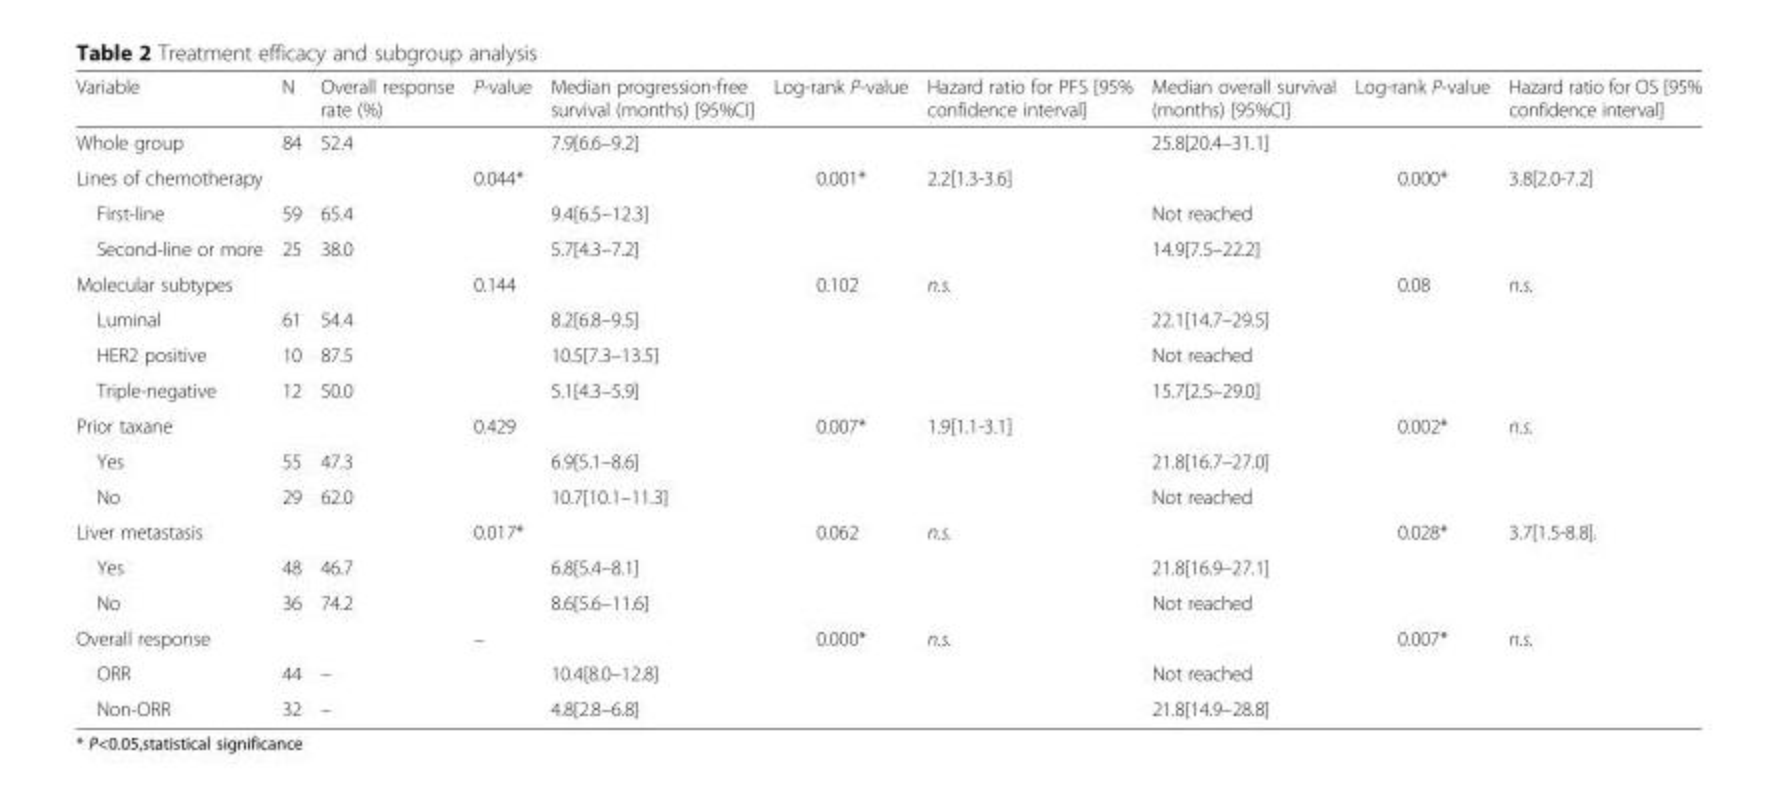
<table><thead><tr><td>Variable</td><td>N</td><td>Overall response rate (%)</td><td>P-value</td><td>Median progression-free survival (months) [95%CI]</td><td>Log-rank P-value</td><td>Hazard ratio for PFS [95% confidence interval]</td><td>Median overall survival (months) [95%CI]</td><td>Log-rank P-value</td><td>Hazard ratio for OS [95% confidence interval]</td></tr></thead><tbody><tr><td>Whole group</td><td>84</td><td>52.4</td><td></td><td>7.9[6.6–9.2]</td><td></td><td></td><td>25.8[20.4–31.1]</td><td></td><td></td></tr><tr><td>Lines of chemotherapy</td><td></td><td></td><td>0.044*</td><td></td><td>0.001*</td><td>2.2[1.3-3.6]</td><td></td><td>0.000*</td><td>3.8[2.0-7.2]</td></tr><tr><td>First-line</td><td>59</td><td>65.4</td><td></td><td>9.4[6.5–12.3]</td><td></td><td></td><td>Not reached</td><td></td><td></td></tr><tr><td>Second-line or more</td><td>25</td><td>38.0</td><td></td><td>5.7[4.3–7.2]</td><td></td><td></td><td>14.9[7.5–22.2]</td><td></td><td></td></tr><tr><td>Molecular subtypes</td><td></td><td></td><td>0.144</td><td></td><td>0.102</td><td>n.s.</td><td></td><td>0.08</td><td>n.s.</td></tr><tr><td>Luminal</td><td>61</td><td>54.4</td><td></td><td>8.2[6.8–9.5]</td><td></td><td></td><td>22.1[14.7–29.5]</td><td></td><td></td></tr><tr><td>HER2 positive</td><td>10</td><td>87.5</td><td></td><td>10.5[7.3–13.5]</td><td></td><td></td><td>Not reached</td><td></td><td></td></tr><tr><td>Triple-negative</td><td>12</td><td>50.0</td><td></td><td>5.1[4.3–5.9]</td><td></td><td></td><td>15.7[2.5–29.0]</td><td></td><td></td></tr><tr><td>Prior taxane</td><td></td><td></td><td>0.429</td><td></td><td>0.007*</td><td>1.9[1.1-3.1]</td><td></td><td>0.002*</td><td>n.s.</td></tr><tr><td>Yes</td><td>55</td><td>47.3</td><td></td><td>6.9[5.1–8.6]</td><td></td><td></td><td>21.8[16.7–27.0]</td><td></td><td></td></tr><tr><td>No</td><td>29</td><td>62.0</td><td></td><td>10.7[10.1–11.3]</td><td></td><td></td><td>Not reached</td><td></td><td></td></tr><tr><td>Liver metastasis</td><td></td><td></td><td>0.017*</td><td></td><td>0.062</td><td>n.s.</td><td></td><td>0.028*</td><td>3.7[1.5-8.8].</td></tr><tr><td>Yes</td><td>48</td><td>46.7</td><td></td><td>6.8[5.4–8.1]</td><td></td><td></td><td>21.8[16.9–27.1]</td><td></td><td></td></tr><tr><td>No</td><td>36</td><td>74.2</td><td></td><td>8.6[5.6–11.6]</td><td></td><td></td><td>Not reached</td><td></td><td></td></tr><tr><td>Overall response</td><td></td><td></td><td>–</td><td></td><td>0.000*</td><td>n.s.</td><td></td><td>0.007*</td><td>n.s.</td></tr><tr><td>ORR</td><td>44</td><td>–</td><td></td><td>10.4[8.0–12.8]</td><td></td><td></td><td>Not reached</td><td></td><td></td></tr><tr><td>Non-ORR</td><td>32</td><td>–</td><td></td><td>4.8[2.8–6.8]</td><td></td><td></td><td>21.8[14.9–28.8]</td><td></td><td></td></tr></tbody></table>